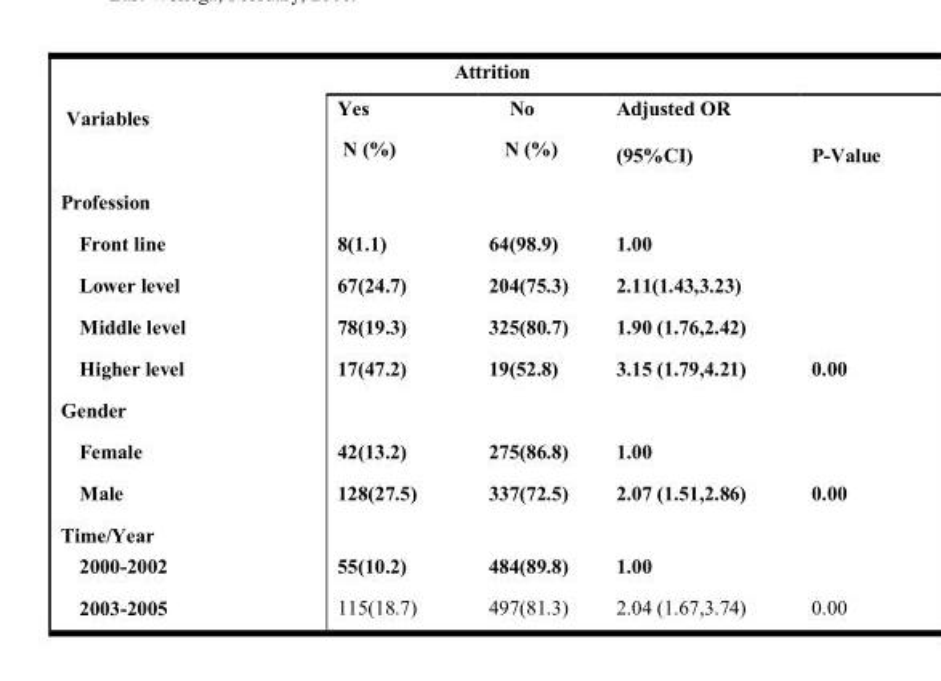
<table><thead><tr><td rowspan="3">Variables</td><td rowspan="3">Yes N (%)</td><td rowspan="3">Attrition No N (%)</td><td rowspan="3">Adjusted OR (95%CI)</td><td rowspan="3">P-Value</td></tr><tr></tr><tr></tr></thead><tbody><tr><td colspan="5">Profession</td></tr><tr><td>Front line</td><td>8(1.1)</td><td>64(98.9)</td><td>1.00</td><td></td></tr><tr><td>Lower level</td><td>67(24.7)</td><td>204(75.3)</td><td>2.11(1.43,3.23)</td><td></td></tr><tr><td>Middle level</td><td>78(19.3)</td><td>325(80.7)</td><td>1.90 (1.76,2.42)</td><td></td></tr><tr><td>Higher level</td><td>17(47.2)</td><td>19(52.8)</td><td>3.15 (1.79,4.21)</td><td>0.00</td></tr><tr><td colspan="5">Gender</td></tr><tr><td>Female</td><td>42(13.2)</td><td>275(86.8)</td><td>1.00</td><td></td></tr><tr><td>Male</td><td>128(27.5)</td><td>337(72.5)</td><td>2.07 (1.51,2.86)</td><td>0.00</td></tr><tr><td colspan="5">Time/Year</td></tr><tr><td>2000-2002</td><td>55(10.2)</td><td>484(89.8)</td><td>1.00</td><td></td></tr><tr><td>2003-2005</td><td>115(18.7)</td><td>497(81.3)</td><td>2.04 (1.67,3.74)</td><td>0.00</td></tr></tbody></table>